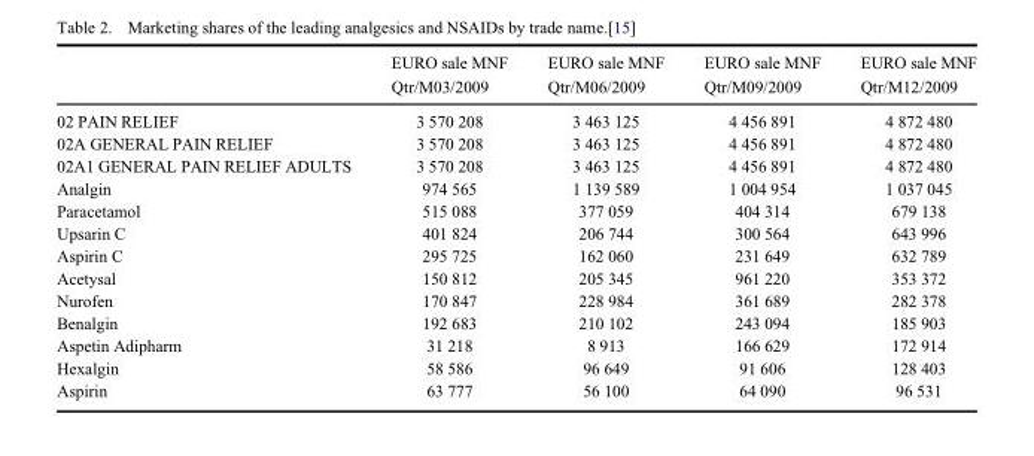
<table><thead><tr><td rowspan="2"></td><td rowspan="2">EURO sale MNF Qtr/M03/2009</td><td rowspan="2">EURO sale MNF Qtr/M06/2009</td><td rowspan="2">EURO sale MNF Qtr/M09/2009</td><td rowspan="2">EURO sale MNF Qtr/M12/2009</td></tr><tr></tr></thead><tbody><tr><td>02 PAIN RELIEF</td><td>3 570 208</td><td>3 463 125</td><td>4 456 891</td><td>4 872 480</td></tr><tr><td>02A GENERAL PAIN RELIEF</td><td>3 570 208</td><td>3 463 125</td><td>4 456 891</td><td>4 872 480</td></tr><tr><td>02A1 GENERAL PAIN RELIEF ADULTS</td><td>3 570 208</td><td>3 463 125</td><td>4 456 891</td><td>4 872 480</td></tr><tr><td>Analgin</td><td>974 565</td><td>1 139 589</td><td>1 004 954</td><td>1 037 045</td></tr><tr><td>Paracetamol</td><td>515 088</td><td>377 059</td><td>404 314</td><td>679 138</td></tr><tr><td>Upsarin C</td><td>401 824</td><td>206 744</td><td>300 564</td><td>643 996</td></tr><tr><td>Aspirin C</td><td>295 725</td><td>162 060</td><td>231 649</td><td>632 789</td></tr><tr><td>Acetysal</td><td>150 812</td><td>205 345</td><td>961 220</td><td>353 372</td></tr><tr><td>Nurofen</td><td>170 847</td><td>228 984</td><td>361 689</td><td>282 378</td></tr><tr><td>Benalgin</td><td>192 683</td><td>210 102</td><td>243 094</td><td>185 903</td></tr><tr><td>Aspetin Adipharm</td><td>31 218</td><td>8 913</td><td>166 629</td><td>172 914</td></tr><tr><td>Hexalgin</td><td>58 586</td><td>96 649</td><td>91 606</td><td>128 403</td></tr><tr><td>Aspirin</td><td>63 777</td><td>56 100</td><td>64 090</td><td>96 531</td></tr></tbody></table>